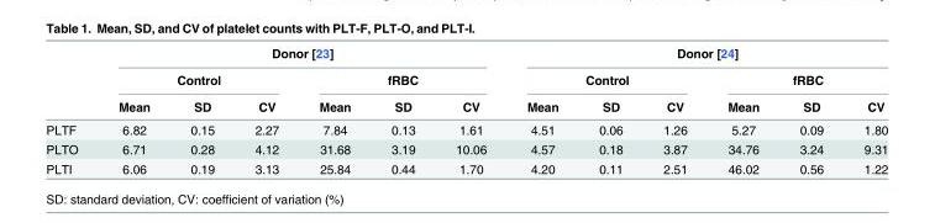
<table><thead><tr><td rowspan="3"></td><td colspan="6">Donor [23]</td><td colspan="6">Donor [24]</td></tr><tr><td colspan="3">Control</td><td colspan="3">fRBC</td><td colspan="3">Control</td><td colspan="3">fRBC</td></tr><tr><td>Mean</td><td>SD</td><td>CV</td><td>Mean</td><td>SD</td><td>CV</td><td>Mean</td><td>SD</td><td>CV</td><td>Mean</td><td>SD</td><td>CV</td></tr></thead><tbody><tr><td>PLTF</td><td>6.82</td><td>0.15</td><td>2.27</td><td>7.84</td><td>0.13</td><td>1.61</td><td>4.51</td><td>0.06</td><td>1.26</td><td>5.27</td><td>0.09</td><td>1.80</td></tr><tr><td>PLTO</td><td>6.71</td><td>0.28</td><td>4.12</td><td>31.68</td><td>3.19</td><td>10.06</td><td>4.57</td><td>0.18</td><td>3.87</td><td>34.76</td><td>3.24</td><td>9.31</td></tr><tr><td>PLTI</td><td>6.06</td><td>0.19</td><td>3.13</td><td>25.84</td><td>0.44</td><td>1.70</td><td>4.20</td><td>0.11</td><td>2.51</td><td>46.02</td><td>0.56</td><td>1.22</td></tr></tbody></table>